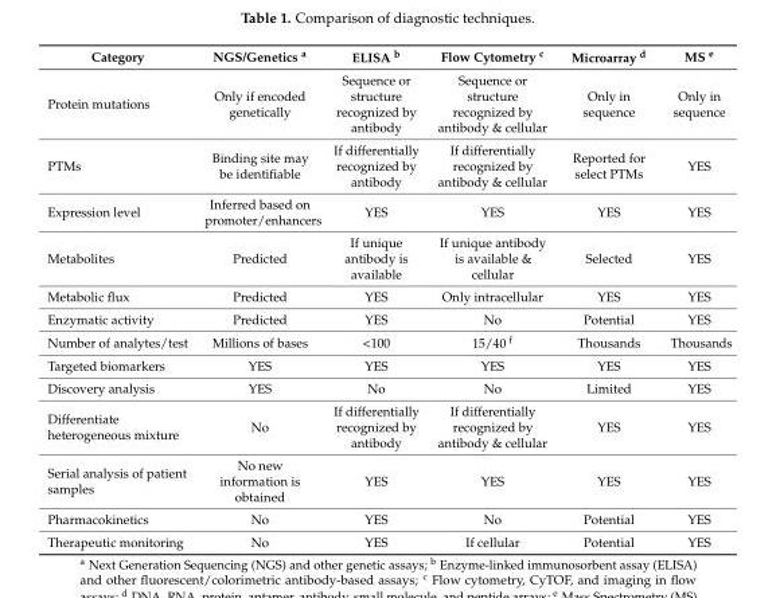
<table><thead><tr><td>Category</td><td>NGS/Genetics a</td><td>ELISA b</td><td>Flow Cytometry c</td><td>Microarray d</td><td>MS e</td></tr></thead><tbody><tr><td>Protein mutations</td><td>Only if encoded genetically</td><td>Sequence or structure recognized by antibody</td><td>Sequence or structure recognized by antibody &amp; cellular</td><td>Only in sequence</td><td>Only in sequence</td></tr><tr><td>PTMs</td><td>Binding site may be identifiable</td><td>If differentially recognized by antibody</td><td>If differentially recognized by antibody &amp; cellular</td><td>Reported for select PTMs</td><td>YES</td></tr><tr><td>Expression level</td><td>Inferred based on promoter/enhancers</td><td>YES</td><td>YES</td><td>YES</td><td>YES</td></tr><tr><td>Metabolites</td><td>Predicted</td><td>If unique antibody is available</td><td>If unique antibody is available &amp; cellular</td><td>Selected</td><td>YES</td></tr><tr><td>Metabolic flux</td><td>Predicted</td><td>YES</td><td>Only intracellular</td><td>YES</td><td>YES</td></tr><tr><td>Enzymatic activity</td><td>Predicted</td><td>YES</td><td>No</td><td>Potential</td><td>YES</td></tr><tr><td>Number of analytes/test</td><td>Millions of bases</td><td>&lt;100</td><td>15/40 f</td><td>Thousands</td><td>Thousands</td></tr><tr><td>Targeted biomarkers</td><td>YES</td><td>YES</td><td>YES</td><td>YES</td><td>YES</td></tr><tr><td>Discovery analysis</td><td>YES</td><td>No</td><td>No</td><td>Limited</td><td>YES</td></tr><tr><td>Differentiate heterogeneous mixture</td><td>No</td><td>If differentially recognized by antibody</td><td>If differentially recognized by antibody &amp; cellular</td><td>YES</td><td>YES</td></tr><tr><td>Serial analysis of patient samples</td><td>No new information is obtained</td><td>YES</td><td>YES</td><td>YES</td><td>YES</td></tr><tr><td>Pharmacokinetics</td><td>No</td><td>YES</td><td>No</td><td>Potential</td><td>YES</td></tr><tr><td>Therapeutic monitoring</td><td>No</td><td>YES</td><td>If cellular</td><td>Potential</td><td>YES</td></tr></tbody></table>